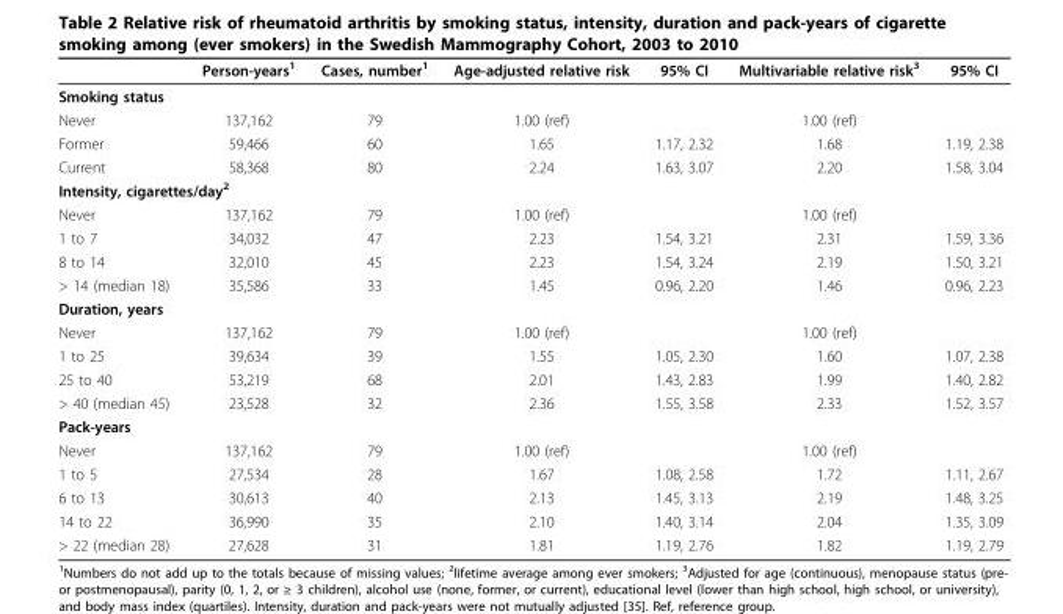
<table><thead><tr><td></td><td>Person-years<sup>1</sup></td><td>Cases, number<sup>1</sup></td><td>Age-adjusted relative risk</td><td>95% CI</td><td>Multivariable relative risk<sup>3</sup></td><td>95% CI</td></tr></thead><tbody><tr><td colspan="7">Smoking status</td></tr><tr><td>Never</td><td>137,162</td><td>79</td><td>1.00 (ref)</td><td></td><td>1.00 (ref)</td><td></td></tr><tr><td>Former</td><td>59,466</td><td>60</td><td>1.65</td><td>1.17, 2.32</td><td>1.68</td><td>1.19, 2.38</td></tr><tr><td>Current</td><td>58,368</td><td>80</td><td>2.24</td><td>1.63, 3.07</td><td>2.20</td><td>1.58, 3.04</td></tr><tr><td colspan="7">Intensity, cigarettes/day<sup>2</sup></td></tr><tr><td>Never</td><td>137,162</td><td>79</td><td>1.00 (ref)</td><td></td><td>1.00 (ref)</td><td></td></tr><tr><td>1 to 7</td><td>34,032</td><td>47</td><td>2.23</td><td>1.54, 3.21</td><td>2.31</td><td>1.59, 3.36</td></tr><tr><td>8 to 14</td><td>32,010</td><td>45</td><td>2.23</td><td>1.54, 3.24</td><td>2.19</td><td>1.50, 3.21</td></tr><tr><td>&gt; 14 (median 18)</td><td>35,586</td><td>33</td><td>1.45</td><td>0.96, 2.20</td><td>1.46</td><td>0.96, 2.23</td></tr><tr><td colspan="7">Duration, years</td></tr><tr><td>Never</td><td>137,162</td><td>79</td><td>1.00 (ref)</td><td></td><td>1.00 (ref)</td><td></td></tr><tr><td>1 to 25</td><td>39,634</td><td>39</td><td>1.55</td><td>1.05, 2.30</td><td>1.60</td><td>1.07, 2.38</td></tr><tr><td>25 to 40</td><td>53,219</td><td>68</td><td>2.01</td><td>1.43, 2.83</td><td>1.99</td><td>1.40, 2.82</td></tr><tr><td>&gt; 40 (median 45)</td><td>23,528</td><td>32</td><td>2.36</td><td>1.55, 3.58</td><td>2.33</td><td>1.52, 3.57</td></tr><tr><td colspan="7">Pack-years</td></tr><tr><td>Never</td><td>137,162</td><td>79</td><td>1.00 (ref)</td><td></td><td>1.00 (ref)</td><td></td></tr><tr><td>1 to 5</td><td>27,534</td><td>28</td><td>1.67</td><td>1.08, 2.58</td><td>1.72</td><td>1.11, 2.67</td></tr><tr><td>6 to 13</td><td>30,613</td><td>40</td><td>2.13</td><td>1.45, 3.13</td><td>2.19</td><td>1.48, 3.25</td></tr><tr><td>14 to 22</td><td>36,990</td><td>35</td><td>2.10</td><td>1.40, 3.14</td><td>2.04</td><td>1.35, 3.09</td></tr><tr><td>&gt; 22 (median 28)</td><td>27,628</td><td>31</td><td>1.81</td><td>1.19, 2.76</td><td>1.82</td><td>1.19, 2.79</td></tr></tbody></table>